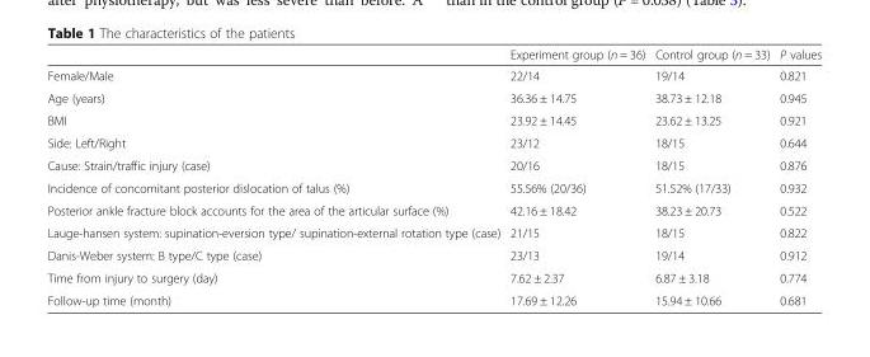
<table><thead><tr><td></td><td>Experiment group (n = 36)</td><td>Control group (n = 33)</td><td>P values</td></tr></thead><tbody><tr><td>Female/Male</td><td>22/14</td><td>19/14</td><td>0.821</td></tr><tr><td>Age (years)</td><td>36.36 ± 14.75</td><td>38.73 ± 12.18</td><td>0.945</td></tr><tr><td>BMI</td><td>23.92 ± 14.45</td><td>23.62 ± 13.25</td><td>0.921</td></tr><tr><td>Side: Left/Right</td><td>23/12</td><td>18/15</td><td>0.644</td></tr><tr><td>Cause: Strain/traffic injury (case)</td><td>20/16</td><td>18/15</td><td>0.876</td></tr><tr><td>Incidence of concomitant posterior dislocation of talus (%)</td><td>55.56% (20/36)</td><td>51.52% (17/33)</td><td>0.932</td></tr><tr><td>Posterior ankle fracture block accounts for the area of the articular surface (%)</td><td>42.16 ± 18.42</td><td>38.23 ± 20.73</td><td>0.522</td></tr><tr><td>Lauge-hansen system: supination-eversion type/ supination-external rotation type (case)</td><td>21/15</td><td>18/15</td><td>0.822</td></tr><tr><td>Danis-Weber system: B type/C type (case)</td><td>23/13</td><td>19/14</td><td>0.912</td></tr><tr><td>Time from injury to surgery (day)</td><td>7.62 ± 2.37</td><td>6.87 ± 3.18</td><td>0.774</td></tr><tr><td>Follow-up time (month)</td><td>17.69 ± 12.26</td><td>15.94 ± 10.66</td><td>0.681</td></tr></tbody></table>